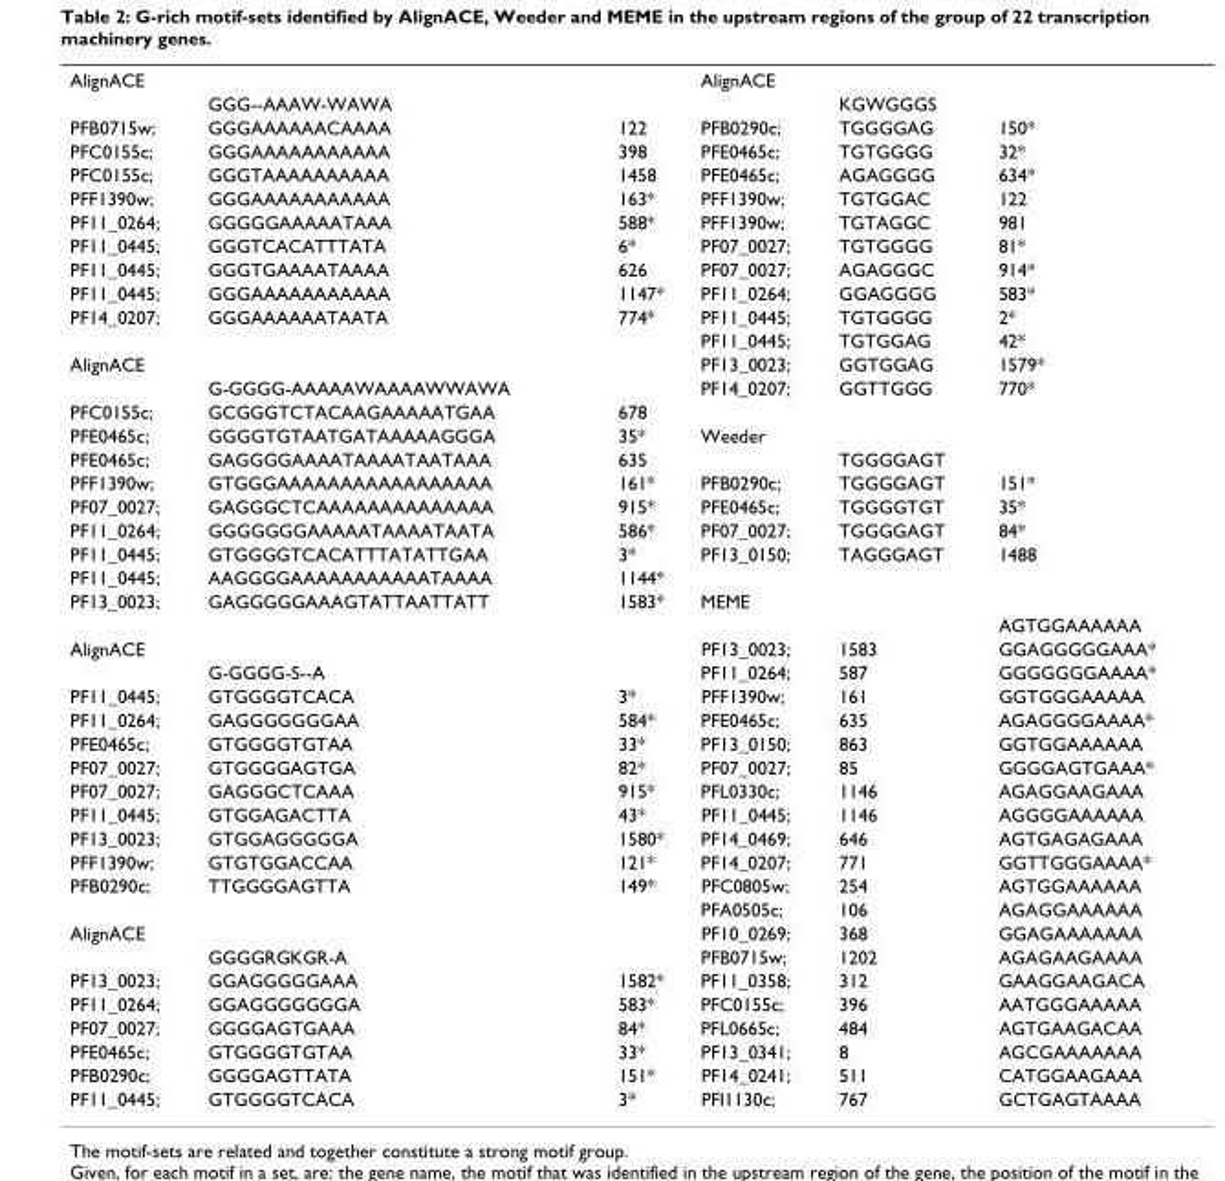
<table><tbody><tr><td rowspan="2">AlignACE</td><td></td><td></td><td>AlignACE</td><td></td><td></td></tr><tr><td>GGG--AAAW-WAWA</td><td></td><td></td><td>KGWGGGS</td><td></td></tr><tr><td>PFB0715w;</td><td>GGGAAAAAACAAAA</td><td>122</td><td>PFB0290c;</td><td>TGGGGAG</td><td>150*</td></tr><tr><td>PFC0155c;</td><td>GGGAAAAAAAAAAA</td><td>398</td><td>PFE0465c;</td><td>TGTGGGG</td><td>32*</td></tr><tr><td>PFC0155c;</td><td>GGGTAAAAAAAAAA</td><td>1458</td><td>PFE0465c;</td><td>AGAGGGG</td><td>634*</td></tr><tr><td>PFF1390w;</td><td>GGGAAAAAAAAAAA</td><td>163*</td><td>PFF1390w;</td><td>TGTGGAC</td><td>122</td></tr><tr><td>PF11_0264;</td><td>GGGGGAAAAATAAA</td><td>588*</td><td>PFF1390w;</td><td>TGTAGGC</td><td>981</td></tr><tr><td>PF11_0445;</td><td>GGGTCACATTTATA</td><td>6*</td><td>PF07_0027;</td><td>TGTGGGG</td><td>81*</td></tr><tr><td>PF11_0445;</td><td>GGGTGAAAATAAAA</td><td>626</td><td>PF07_0027;</td><td>AGAGGGC</td><td>914*</td></tr><tr><td>PF11_0445;</td><td>GGGAAAAAAAAAAA</td><td>1147*</td><td>PF11_0264;</td><td>GGAGGGG</td><td>583*</td></tr><tr><td rowspan="2">PF14_0207;</td><td>GGGAAAAAATAATA</td><td>774*</td><td>PF11_0445;</td><td>TGTGGGG</td><td>2*</td></tr><tr><td></td><td></td><td>PF11_0445;</td><td>TGTGGAG</td><td>42*</td></tr><tr><td rowspan="2">AlignACE</td><td></td><td></td><td>PF13_0023;</td><td>GGTGGAG</td><td>1579*</td></tr><tr><td>G-GGGG-AAAAAWAAAAWWAWA</td><td></td><td>PF14_0207;</td><td>GGTTGGG</td><td>770*</td></tr><tr><td>PFC0155c;</td><td>GCGGGTCTACAAGAAAAATGAA</td><td>678</td><td></td><td></td><td></td></tr><tr><td>PFE0465c;</td><td>GGGGTGTAATGATAAAAAGGGA</td><td>35*</td><td>Weeder</td><td></td><td></td></tr><tr><td>PFE0465c;</td><td>GAGGGGAAAATAAAATAATAAA</td><td>635</td><td></td><td>TGGGGAGT</td><td></td></tr><tr><td>PFF1390w;</td><td>GTGGGAAAAAAAAAAAAAAAAA</td><td>161*</td><td>PFB0290c;</td><td>TGGGGAGT</td><td>151*</td></tr><tr><td>PF07_0027;</td><td>GAGGGCTCAAAAAAAAAAAAAA</td><td>915*</td><td>PFE0465c;</td><td>TGGGGTGT</td><td>35*</td></tr><tr><td>PF11_0264;</td><td>GGGGGGGAAAAATAAAATAATA</td><td>586*</td><td>PF07_0027;</td><td>TGGGGAGT</td><td>84*</td></tr><tr><td>PF11_0445;</td><td>GTGGGGTCACATTTATATTGAA</td><td>3*</td><td>PF13_0150;</td><td>TAGGGAGT</td><td>1488</td></tr><tr><td>PF11_0445;</td><td>AAGGGGAAAAAAAAAAATAAAA</td><td>1144*</td><td></td><td></td><td></td></tr><tr><td rowspan="2">PF13_0023;</td><td>GAGGGGGAAAGTATTAATTATT</td><td>1583*</td><td>MEME</td><td></td><td></td></tr><tr><td></td><td></td><td></td><td></td><td>AGTGGAAAAAA</td></tr><tr><td rowspan="2">AlignACE</td><td></td><td></td><td>PF13_0023;</td><td>1583</td><td>GGAGGGGGAAA*</td></tr><tr><td>G-GGGG-S--A</td><td></td><td>PF11_0264;</td><td>587</td><td>GGGGGGGAAAA*</td></tr><tr><td>PF11_0445;</td><td>GTGGGGTCACA</td><td>3*</td><td>PFF1390w;</td><td>161</td><td>GGTGGGAAAAA</td></tr><tr><td>PF11_0264;</td><td>GAGGGGGGGAA</td><td>584*</td><td>PFE0465c;</td><td>635</td><td>AGAGGGGAAAA*</td></tr><tr><td>PFE0465c;</td><td>GTGGGGTGTAA</td><td>33*</td><td>PF13_0150;</td><td>863</td><td>GGTGGAAAAAA</td></tr><tr><td>PF07_0027;</td><td>GTGGGGAGTGA</td><td>82*</td><td>PF07_0027;</td><td>85</td><td>GGGGAGTGAAA*</td></tr><tr><td>PF07_0027;</td><td>GAGGGCTCAAA</td><td>915*</td><td>PFL0330c;</td><td>1146</td><td>AGAGGAAGAAA</td></tr><tr><td>PF11_0445;</td><td>GTGGAGACTTA</td><td>43*</td><td>PF11_0445;</td><td>1146</td><td>AGGGGAAAAAA</td></tr><tr><td>PF13_0023;</td><td>GTGGAGGGGGA</td><td>1580*</td><td>PF14_0469;</td><td>646</td><td>AGTGAGAGAAA</td></tr><tr><td>PFF1390w;</td><td>GTGTGGACCAA</td><td>121*</td><td>PF14_0207;</td><td>771</td><td>GGTTGGGAAAA*</td></tr><tr><td rowspan="2">PFB0290c;</td><td>TTGGGGAGTTA</td><td>149*</td><td>PFC0805w;</td><td>254</td><td>AGTGGAAAAAA</td></tr><tr><td></td><td></td><td>PFA0505c;</td><td>106</td><td>AGAGGAAAAAA</td></tr><tr><td rowspan="2">AlignACE</td><td></td><td></td><td>PF10_0269;</td><td>368</td><td>GGAGAAAAAAA</td></tr><tr><td>GGGGRGKGR-A</td><td></td><td>PFB0715w;</td><td>1202</td><td>AGAGAAGAAAA</td></tr><tr><td>PF13_0023;</td><td>GGAGGGGGAAA</td><td>1582*</td><td>PF11_0358;</td><td>312</td><td>GAAGGAAGACA</td></tr><tr><td>PF11_0264;</td><td>GGAGGGGGGGA</td><td>583*</td><td>PFC0155c;</td><td>396</td><td>AATGGGAAAAA</td></tr><tr><td>PF07_0027;</td><td>GGGGAGTGAAA</td><td>84*</td><td>PFL0665c;</td><td>484</td><td>AGTGAAGACAA</td></tr><tr><td>PFE0465c;</td><td>GTGGGGTGTAA</td><td>33*</td><td>PF13_0341;</td><td>8</td><td>AGCGAAAAAAA</td></tr><tr><td>PFB0290c;</td><td>GGGGAGTTATA</td><td>151*</td><td>PF14_0241;</td><td>511</td><td>CATGGAAGAAA</td></tr><tr><td>PF11_0445;</td><td>GTGGGGTCACA</td><td>3*</td><td>PFI1130c;</td><td>767</td><td>GCTGAGTAAAA</td></tr></tbody></table>